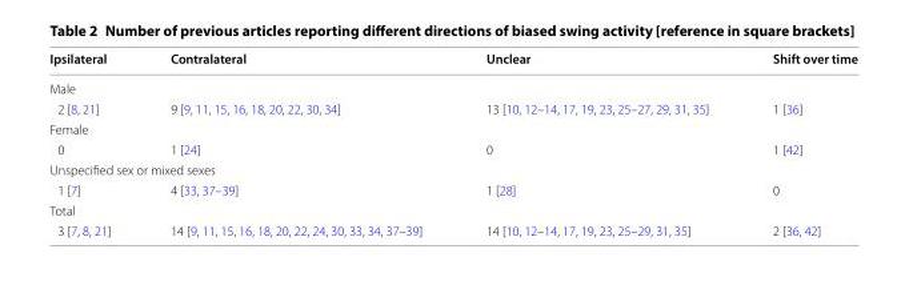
<table><thead><tr><td>Ipsilateral</td><td>Contralateral</td><td>Unclear</td><td>Shift over time</td></tr></thead><tbody><tr><td colspan="4">Male</td></tr><tr><td>2 [8, 21]</td><td>9 [9, 11, 15, 16, 18, 20, 22, 30, 34]</td><td>13 [10, 12–14, 17, 19, 23, 25–27, 29, 31, 35]</td><td>1 [36]</td></tr><tr><td colspan="4">Female</td></tr><tr><td>0</td><td>1 [24]</td><td>0</td><td>1 [42]</td></tr><tr><td colspan="4">Unspecified sex or mixed sexes</td></tr><tr><td>1 [7]</td><td>4 [33, 37–39]</td><td>1 [28]</td><td>0</td></tr><tr><td colspan="4">Total</td></tr><tr><td>3 [7, 8, 21]</td><td>14 [9, 11, 15, 16, 18, 20, 22, 24, 30, 33, 34, 37–39]</td><td>14 [10, 12–14, 17, 19, 23, 25–29, 31, 35]</td><td>2 [36, 42]</td></tr></tbody></table>